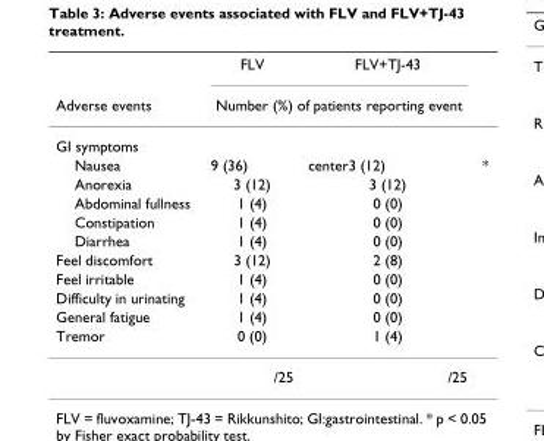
<table><thead><tr><td rowspan="2">Adverse events</td><td>FLV</td><td>FLV+TJ-43</td><td rowspan="2"></td></tr><tr><td colspan="2">Number (%) of patients reporting event</td></tr></thead><tbody><tr><td colspan="4">GI symptoms</td></tr><tr><td>Nausea</td><td>9 (36)</td><td>center3 (12)</td><td>*</td></tr><tr><td>Anorexia</td><td>3 (12)</td><td>3 (12)</td><td></td></tr><tr><td>Abdominal fullness</td><td>1 (4)</td><td>0 (0)</td><td></td></tr><tr><td>Constipation</td><td>1 (4)</td><td>0 (0)</td><td></td></tr><tr><td>Diarrhea</td><td>1 (4)</td><td>0 (0)</td><td></td></tr><tr><td>Feel discomfort</td><td>3 (12)</td><td>2 (8)</td><td></td></tr><tr><td>Feel irritable</td><td>1 (4)</td><td>0 (0)</td><td></td></tr><tr><td>Difficulty in urinating</td><td>1 (4)</td><td>0 (0)</td><td></td></tr><tr><td>General fatigue</td><td>1 (4)</td><td>0 (0)</td><td></td></tr><tr><td rowspan="2">Tremor</td><td>0 (0)</td><td>1 (4)</td><td></td></tr><tr><td>/25</td><td>/25</td><td></td></tr></tbody></table>